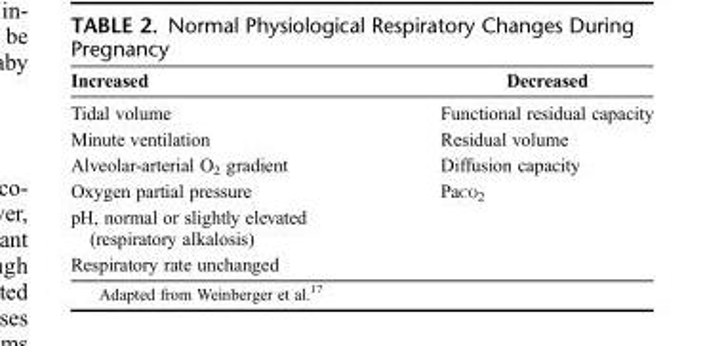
<table><thead><tr><td>Increased</td><td>Decreased</td></tr></thead><tbody><tr><td>Tidal volume</td><td>Functional residual capacity</td></tr><tr><td>Minute ventilation</td><td>Residual volume</td></tr><tr><td>Alveolar-arterial O<sub>2</sub> gradient</td><td>Diffusion capacity</td></tr><tr><td>Oxygen partial pressure</td><td>PaCO<sub>2</sub></td></tr><tr><td colspan="2">pH, normal or slightly elevated (respiratory alkalosis)</td></tr><tr><td>Respiratory rate unchanged</td><td></td></tr></tbody></table>